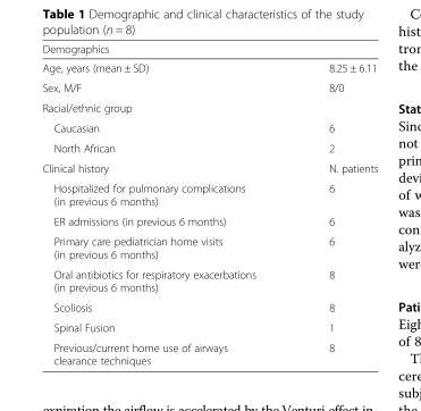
<table><thead><tr><td>Demographics</td><td></td></tr></thead><tbody><tr><td>Age, years (mean ± SD)</td><td>8.25 ± 6.11</td></tr><tr><td>Sex, M/F</td><td>8/0</td></tr><tr><td colspan="2">Racial/ethnic group</td></tr><tr><td>Caucasian</td><td>6</td></tr><tr><td>North African</td><td>2</td></tr><tr><td>Clinical history</td><td>N. patients</td></tr><tr><td>Hospitalized for pulmonary complications (in previous 6 months)</td><td>6</td></tr><tr><td>ER admissions (in previous 6 months)</td><td>6</td></tr><tr><td>Primary care pediatrician home visits (in previous 6 months)</td><td>6</td></tr><tr><td>Oral antibiotics for respiratory exacerbations (in previous 6 months)</td><td>8</td></tr><tr><td>Scoliosis</td><td>8</td></tr><tr><td>Spinal Fusion</td><td>1</td></tr><tr><td>Previous/current home use of airways clearance techniques</td><td>8</td></tr></tbody></table>